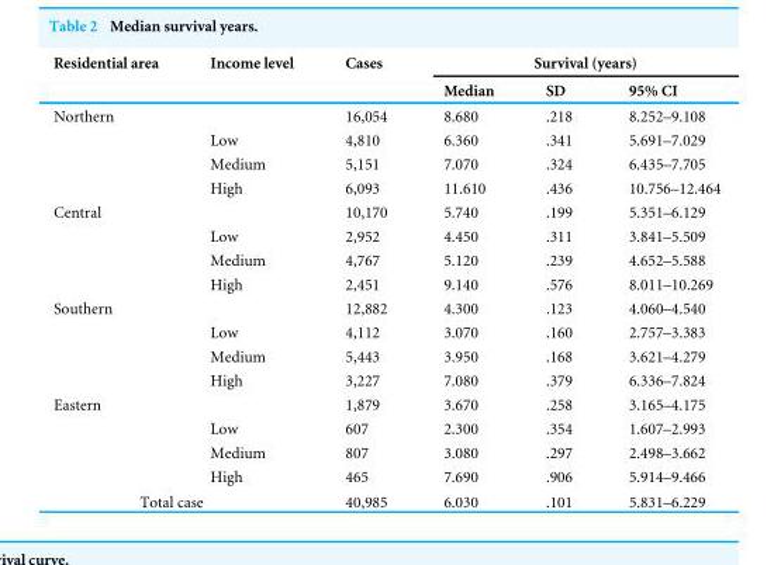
<table><thead><tr><td rowspan="2">Residential area</td><td rowspan="2">Income level</td><td rowspan="2">Cases</td><td colspan="3">Survival (years)</td></tr><tr><td>Median</td><td>SD</td><td>95% CI</td></tr></thead><tbody><tr><td rowspan="4">Northern</td><td></td><td>16,054</td><td>8.680</td><td>.218</td><td>8.252–9.108</td></tr><tr><td>Low</td><td>4,810</td><td>6.360</td><td>.341</td><td>5.691–7.029</td></tr><tr><td>Medium</td><td>5,151</td><td>7.070</td><td>.324</td><td>6.435–7.705</td></tr><tr><td>High</td><td>6,093</td><td>11.610</td><td>.436</td><td>10.756–12.464</td></tr><tr><td rowspan="4">Central</td><td></td><td>10,170</td><td>5.740</td><td>.199</td><td>5.351–6.129</td></tr><tr><td>Low</td><td>2,952</td><td>4.450</td><td>.311</td><td>3.841–5.509</td></tr><tr><td>Medium</td><td>4,767</td><td>5.120</td><td>.239</td><td>4.652–5.588</td></tr><tr><td>High</td><td>2,451</td><td>9.140</td><td>.576</td><td>8.011–10.269</td></tr><tr><td rowspan="4">Southern</td><td></td><td>12,882</td><td>4.300</td><td>.123</td><td>4.060–4.540</td></tr><tr><td>Low</td><td>4,112</td><td>3.070</td><td>.160</td><td>2.757–3.383</td></tr><tr><td>Medium</td><td>5,443</td><td>3.950</td><td>.168</td><td>3.621–4.279</td></tr><tr><td>High</td><td>3,227</td><td>7.080</td><td>.379</td><td>6.336–7.824</td></tr><tr><td rowspan="4">Eastern</td><td></td><td>1,879</td><td>3.670</td><td>.258</td><td>3.165–4.175</td></tr><tr><td>Low</td><td>607</td><td>2.300</td><td>.354</td><td>1.607–2.993</td></tr><tr><td>Medium</td><td>807</td><td>3.080</td><td>.297</td><td>2.498–3.662</td></tr><tr><td>High</td><td>465</td><td>7.690</td><td>.906</td><td>5.914–9.466</td></tr><tr><td colspan="2">Total case</td><td>40,985</td><td>6.030</td><td>.101</td><td>5.831–6.229</td></tr></tbody></table>